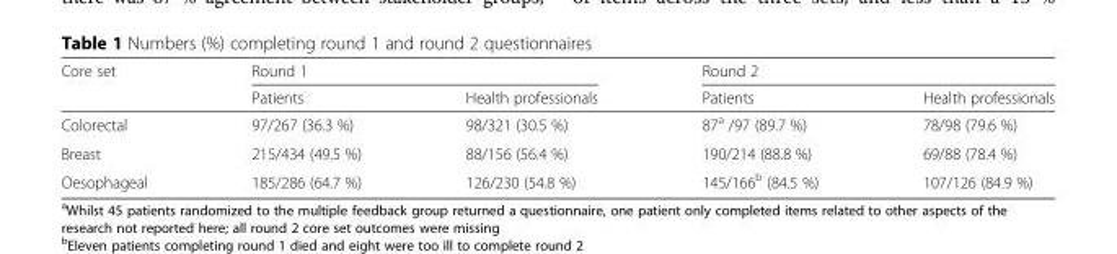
<table><thead><tr><td rowspan="2">Core set</td><td colspan="2">Round 1</td><td colspan="2">Round 2</td></tr><tr><td>Patients</td><td>Health professionals</td><td>Patients</td><td>Health professionals</td></tr></thead><tbody><tr><td>Colorectal</td><td>97/267 (36.3 %)</td><td>98/321 (30.5 %)</td><td>87<sup>a</sup> /97 (89.7 %)</td><td>78/98 (79.6 %)</td></tr><tr><td>Breast</td><td>215/434 (49.5 %)</td><td>88/156 (56.4 %)</td><td>190/214 (88.8 %)</td><td>69/88 (78.4 %)</td></tr><tr><td>Oesophageal</td><td>185/286 (64.7 %)</td><td>126/230 (54.8 %)</td><td>145/166<sup>b</sup> (84.5 %)</td><td>107/126 (84.9 %)</td></tr></tbody></table>